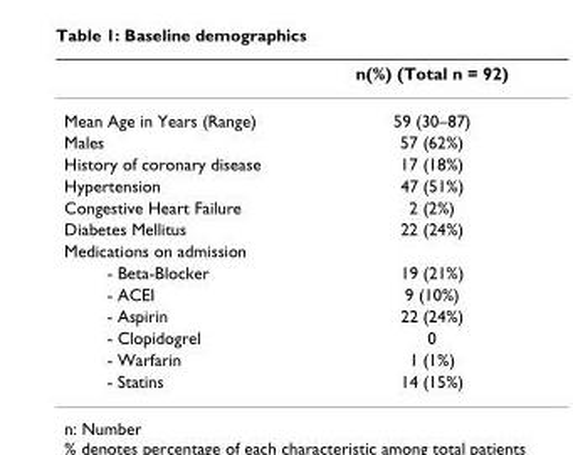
<table><thead><tr><td></td><td>n(%) (Total n = 92)</td></tr></thead><tbody><tr><td>Mean Age in Years (Range)</td><td>59 (30–87)</td></tr><tr><td>Males</td><td>57 (62%)</td></tr><tr><td>History of coronary disease</td><td>17 (18%)</td></tr><tr><td>Hypertension</td><td>47 (51%)</td></tr><tr><td>Congestive Heart Failure</td><td>2 (2%)</td></tr><tr><td>Diabetes Mellitus</td><td>22 (24%)</td></tr><tr><td colspan="2">Medications on admission</td></tr><tr><td>- Beta-Blocker</td><td>19 (21%)</td></tr><tr><td>- ACEI</td><td>9 (10%)</td></tr><tr><td>- Aspirin</td><td>22 (24%)</td></tr><tr><td>- Clopidogrel</td><td>0</td></tr><tr><td>- Warfarin</td><td>1 (1%)</td></tr><tr><td>- Statins</td><td>14 (15%)</td></tr></tbody></table>